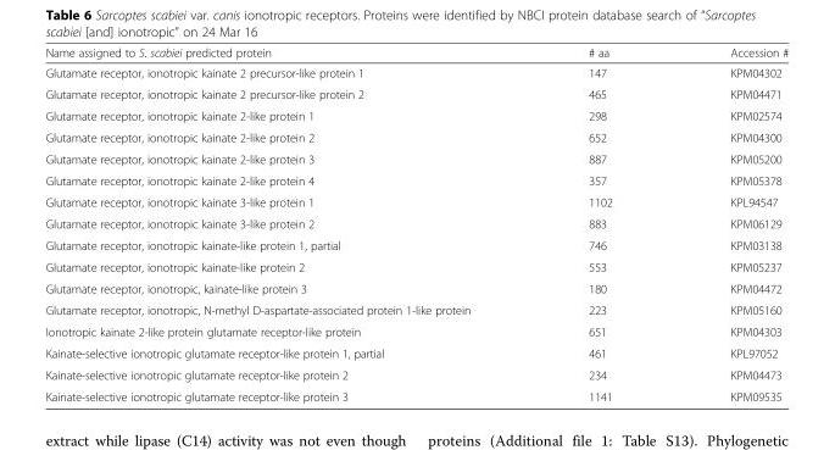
<table><thead><tr><td>Name assigned to S. scabiei predicted protein</td><td># aa</td><td>Accession #</td></tr></thead><tbody><tr><td>Glutamate receptor, ionotropic kainate 2 precursor-like protein 1</td><td>147</td><td>KPM04302</td></tr><tr><td>Glutamate receptor, ionotropic kainate 2 precursor-like protein 2</td><td>465</td><td>KPM04471</td></tr><tr><td>Glutamate receptor, ionotropic kainate 2-like protein 1</td><td>298</td><td>KPM02574</td></tr><tr><td>Glutamate receptor, ionotropic kainate 2-like protein 2</td><td>652</td><td>KPM04300</td></tr><tr><td>Glutamate receptor, ionotropic kainate 2-like protein 3</td><td>887</td><td>KPM05200</td></tr><tr><td>Glutamate receptor, ionotropic kainate 2-like protein 4</td><td>357</td><td>KPM05378</td></tr><tr><td>Glutamate receptor, ionotropic kainate 3-like protein 1</td><td>1102</td><td>KPL94547</td></tr><tr><td>Glutamate receptor, ionotropic kainate 3-like protein 2</td><td>883</td><td>KPM06129</td></tr><tr><td>Glutamate receptor, ionotropic kainate-like protein 1, partial</td><td>746</td><td>KPM03138</td></tr><tr><td>Glutamate receptor, ionotropic kainate-like protein 2</td><td>553</td><td>KPM05237</td></tr><tr><td>Glutamate receptor, ionotropic, kainate-like protein 3</td><td>180</td><td>KPM04472</td></tr><tr><td>Glutamate receptor, ionotropic, N-methyl D-aspartate-associated protein 1-like protein</td><td>223</td><td>KPM05160</td></tr><tr><td>Ionotropic kainate 2-like protein glutamate receptor-like protein</td><td>651</td><td>KPM04303</td></tr><tr><td>Kainate-selective ionotropic glutamate receptor-like protein 1, partial</td><td>461</td><td>KPL97052</td></tr><tr><td>Kainate-selective ionotropic glutamate receptor-like protein 2</td><td>234</td><td>KPM04473</td></tr><tr><td>Kainate-selective ionotropic glutamate receptor-like protein 3</td><td>1141</td><td>KPM09535</td></tr></tbody></table>